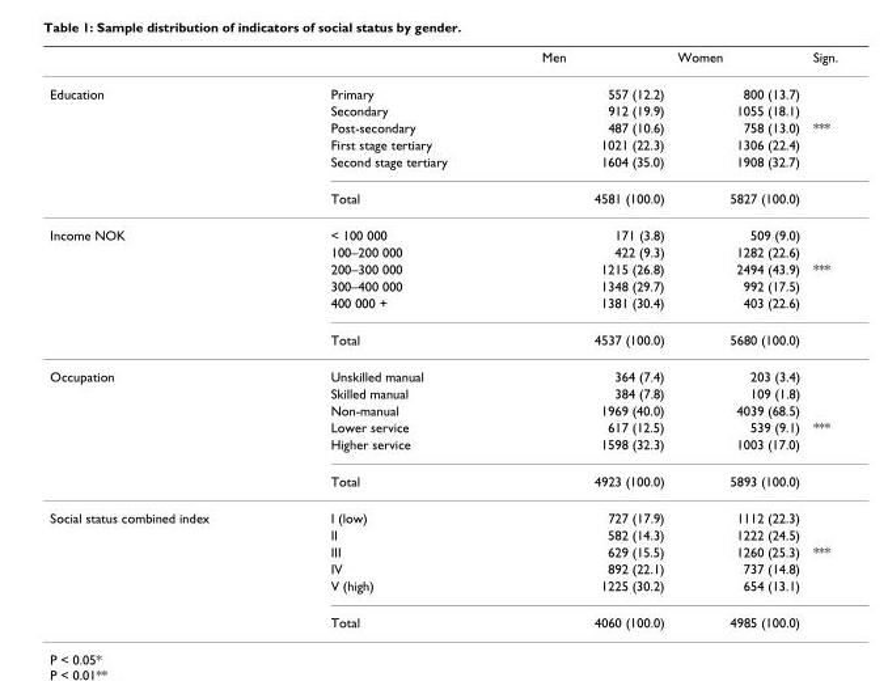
<table><thead><tr><td></td><td></td><td>Men</td><td>Women</td><td>Sign.</td></tr></thead><tbody><tr><td rowspan="6">Education</td><td>Primary</td><td>557 (12.2)</td><td>800 (13.7)</td><td></td></tr><tr><td>Secondary</td><td>912 (19.9)</td><td>1055 (18.1)</td><td></td></tr><tr><td>Post-secondary</td><td>487 (10.6)</td><td>758 (13.0)</td><td>***</td></tr><tr><td>First stage tertiary</td><td>1021 (22.3)</td><td>1306 (22.4)</td><td></td></tr><tr><td>Second stage tertiary</td><td>1604 (35.0)</td><td>1908 (32.7)</td><td></td></tr><tr><td>Total</td><td>4581 (100.0)</td><td>5827 (100.0)</td><td></td></tr><tr><td rowspan="6">Income NOK</td><td>&lt; 100 000</td><td>171 (3.8)</td><td>509 (9.0)</td><td></td></tr><tr><td>100–200 000</td><td>422 (9.3)</td><td>1282 (22.6)</td><td></td></tr><tr><td>200–300 000</td><td>1215 (26.8)</td><td>2494 (43.9)</td><td>***</td></tr><tr><td>300–400 000</td><td>1348 (29.7)</td><td>992 (17.5)</td><td></td></tr><tr><td>400 000 +</td><td>1381 (30.4)</td><td>403 (22.6)</td><td></td></tr><tr><td>Total</td><td>4537 (100.0)</td><td>5680 (100.0)</td><td></td></tr><tr><td rowspan="6">Occupation</td><td>Unskilled manual</td><td>364 (7.4)</td><td>203 (3.4)</td><td></td></tr><tr><td>Skilled manual</td><td>384 (7.8)</td><td>109 (1.8)</td><td></td></tr><tr><td>Non-manual</td><td>1969 (40.0)</td><td>4039 (68.5)</td><td></td></tr><tr><td>Lower service</td><td>617 (12.5)</td><td>539 (9.1)</td><td>***</td></tr><tr><td>Higher service</td><td>1598 (32.3)</td><td>1003 (17.0)</td><td></td></tr><tr><td>Total</td><td>4923 (100.0)</td><td>5893 (100.0)</td><td></td></tr><tr><td rowspan="6">Social status combined index</td><td>I (low)</td><td>727 (17.9)</td><td>1112 (22.3)</td><td></td></tr><tr><td>II</td><td>582 (14.3)</td><td>1222 (24.5)</td><td></td></tr><tr><td>III</td><td>629 (15.5)</td><td>1260 (25.3)</td><td>***</td></tr><tr><td>IV</td><td>892 (22.1)</td><td>737 (14.8)</td><td></td></tr><tr><td>V (high)</td><td>1225 (30.2)</td><td>654 (13.1)</td><td></td></tr><tr><td>Total</td><td>4060 (100.0)</td><td>4985 (100.0)</td><td></td></tr></tbody></table>